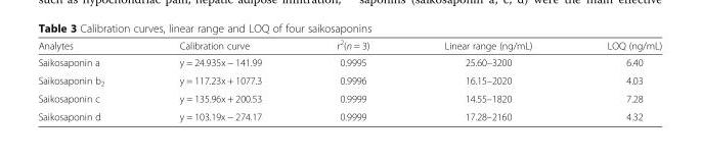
<table><thead><tr><td>Analytes</td><td>Calibration curve</td><td>r<sup>2</sup>(n = 3)</td><td>Linear range (ng/mL)</td><td>LOQ (ng/mL)</td></tr></thead><tbody><tr><td>Saikosaponin a</td><td>y = 24.935x − 141.99</td><td>0.9995</td><td>25.60–3200</td><td>6.40</td></tr><tr><td>Saikosaponin b<sub>2</sub></td><td>y = 117.23x + 1077.3</td><td>0.9996</td><td>16.15–2020</td><td>4.03</td></tr><tr><td>Saikosaponin c</td><td>y = 135.96x + 200.53</td><td>0.9999</td><td>14.55–1820</td><td>7.28</td></tr><tr><td>Saikosaponin d</td><td>y = 103.19x − 274.17</td><td>0.9999</td><td>17.28–2160</td><td>4.32</td></tr></tbody></table>